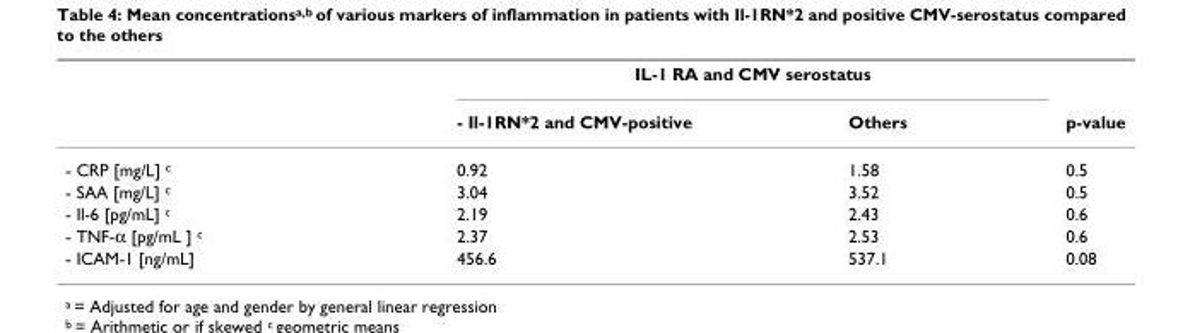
<table><thead><tr><td rowspan="2"></td><td colspan="2">IL-1 RA and CMV serostatus</td><td rowspan="2">p-value</td></tr><tr><td>- Il-1RN*2 and CMV-positive</td><td>Others</td></tr></thead><tbody><tr><td>- CRP [mg/L] <sup>c</sup></td><td>0.92</td><td>1.58</td><td>0.5</td></tr><tr><td>- SAA [mg/L] <sup>c</sup></td><td>3.04</td><td>3.52</td><td>0.5</td></tr><tr><td>- Il-6 [pg/mL] <sup>c</sup></td><td>2.19</td><td>2.43</td><td>0.6</td></tr><tr><td>- TNF-α [pg/mL ] <sup>c</sup></td><td>2.37</td><td>2.53</td><td>0.6</td></tr><tr><td>- ICAM-1 [ng/mL]</td><td>456.6</td><td>537.1</td><td>0.08</td></tr></tbody></table>